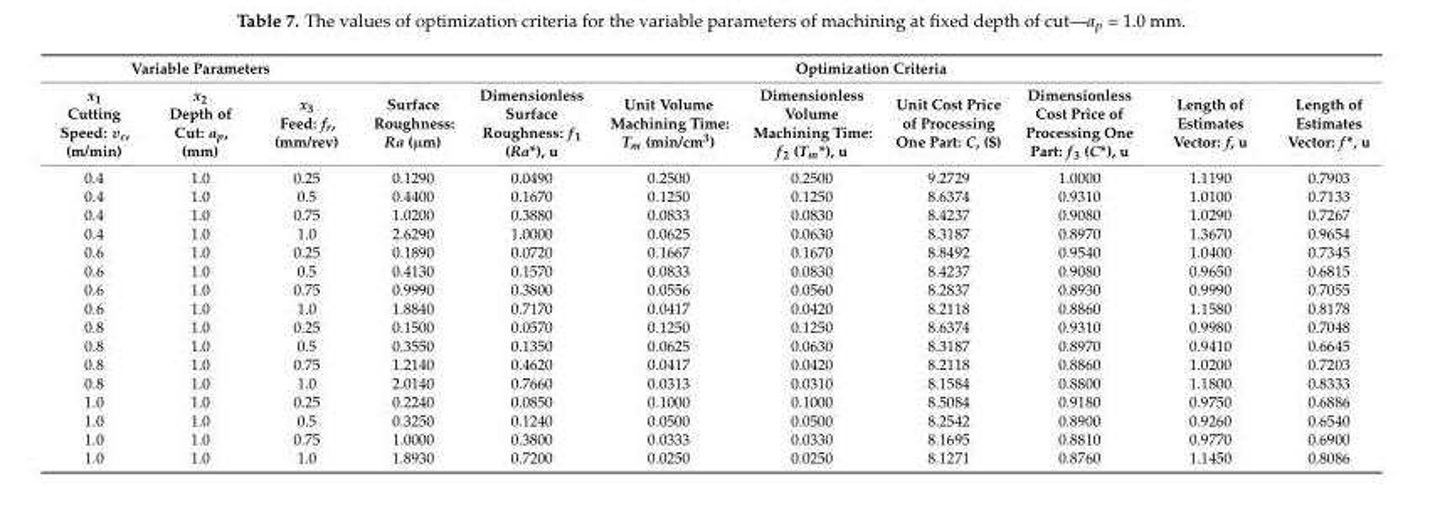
<table><thead><tr><td colspan="3">Variable Parameters</td><td colspan="8">Optimization Criteria</td></tr><tr><td>x<sub>1</sub> Cutting Speed: v<sub>c</sub>, (m/min)</td><td>x<sub>2</sub> Depth of Cut: a<sub>p</sub>, (mm)</td><td>x<sub>3</sub> Feed: f<sub>r</sub>, (mm/rev)</td><td>Surface Roughness: Ra (µm)</td><td>Dimensionless Surface Roughness: f<sub>1</sub> (Ra*), u</td><td>Unit Volume Machining Time: T<sub>m</sub> (min/cm<sup>3</sup>)</td><td>Dimensionless Volume Machining Time: f<sub>2</sub> (T<sub>m</sub>*), u</td><td>Unit Cost Price of Processing One Part: C, ($)</td><td>Dimensionless Cost Price of Processing One Part: f<sub>3</sub> (C*), u</td><td>Length of Estimates Vector: f, u</td><td>Length of Estimates Vector: f*, u</td></tr></thead><tbody><tr><td>0.4</td><td>1.0</td><td>0.25</td><td>0.1290</td><td>0.0490</td><td>0.2500</td><td>0.2500</td><td>9.2729</td><td>1.0000</td><td>1.1190</td><td>0.7903</td></tr><tr><td>0.4</td><td>1.0</td><td>0.5</td><td>0.4400</td><td>0.1670</td><td>0.1250</td><td>0.1250</td><td>8.6374</td><td>0.9310</td><td>1.0100</td><td>0.7133</td></tr><tr><td>0.4</td><td>1.0</td><td>0.75</td><td>1.0200</td><td>0.3880</td><td>0.0833</td><td>0.0830</td><td>8.4237</td><td>0.9080</td><td>1.0290</td><td>0.7267</td></tr><tr><td>0.4</td><td>1.0</td><td>1.0</td><td>2.6290</td><td>1.0000</td><td>0.0625</td><td>0.0630</td><td>8.3187</td><td>0.8970</td><td>1.3670</td><td>0.9654</td></tr><tr><td>0.6</td><td>1.0</td><td>0.25</td><td>0.1890</td><td>0.0720</td><td>0.1667</td><td>0.1670</td><td>8.8492</td><td>0.9540</td><td>1.0400</td><td>0.7345</td></tr><tr><td>0.6</td><td>1.0</td><td>0.5</td><td>0.4130</td><td>0.1570</td><td>0.0833</td><td>0.0830</td><td>8.4237</td><td>0.9080</td><td>0.9650</td><td>0.6815</td></tr><tr><td>0.6</td><td>1.0</td><td>0.75</td><td>0.9990</td><td>0.3800</td><td>0.0556</td><td>0.0560</td><td>8.2837</td><td>0.8930</td><td>0.9990</td><td>0.7055</td></tr><tr><td>0.6</td><td>1.0</td><td>1.0</td><td>1.8840</td><td>0.7170</td><td>0.0417</td><td>0.0420</td><td>8.2118</td><td>0.8860</td><td>1.1580</td><td>0.8178</td></tr><tr><td>0.8</td><td>1.0</td><td>0.25</td><td>0.1500</td><td>0.0570</td><td>0.1250</td><td>0.1250</td><td>8.6374</td><td>0.9310</td><td>0.9980</td><td>0.7048</td></tr><tr><td>0.8</td><td>1.0</td><td>0.5</td><td>0.3550</td><td>0.1350</td><td>0.0625</td><td>0.0630</td><td>8.3187</td><td>0.8970</td><td>0.9410</td><td>0.6645</td></tr><tr><td>0.8</td><td>1.0</td><td>0.75</td><td>1.2140</td><td>0.4620</td><td>0.0417</td><td>0.0420</td><td>8.2118</td><td>0.8860</td><td>1.0200</td><td>0.7203</td></tr><tr><td>0.8</td><td>1.0</td><td>1.0</td><td>2.0140</td><td>0.7660</td><td>0.0313</td><td>0.0310</td><td>8.1584</td><td>0.8800</td><td>1.1800</td><td>0.8333</td></tr><tr><td>1.0</td><td>1.0</td><td>0.25</td><td>0.2240</td><td>0.0850</td><td>0.1000</td><td>0.1000</td><td>8.5084</td><td>0.9180</td><td>0.9750</td><td>0.6886</td></tr><tr><td>1.0</td><td>1.0</td><td>0.5</td><td>0.3250</td><td>0.1240</td><td>0.0500</td><td>0.0500</td><td>8.2542</td><td>0.8900</td><td>0.9260</td><td>0.6540</td></tr><tr><td>1.0</td><td>1.0</td><td>0.75</td><td>1.0000</td><td>0.3800</td><td>0.0333</td><td>0.0330</td><td>8.1695</td><td>0.8810</td><td>0.9770</td><td>0.6900</td></tr><tr><td>1.0</td><td>1.0</td><td>1.0</td><td>1.8930</td><td>0.7200</td><td>0.0250</td><td>0.0250</td><td>8.1271</td><td>0.8760</td><td>1.1450</td><td>0.8086</td></tr></tbody></table>